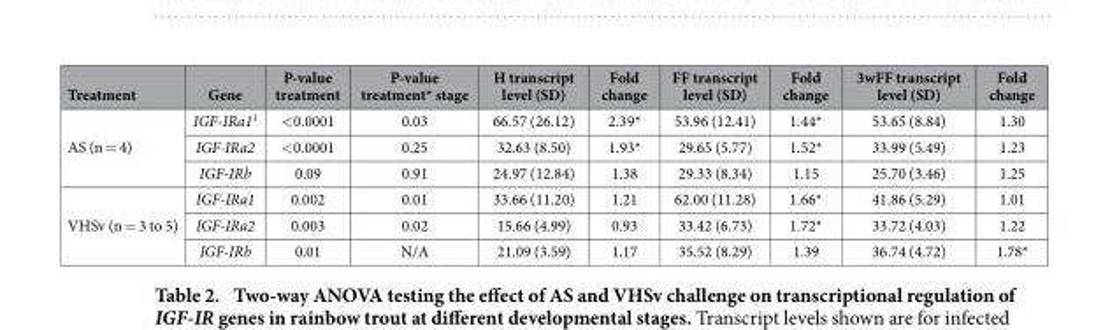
<table><thead><tr><td>Treatment</td><td>Gene</td><td>P-value treatment</td><td>P-value treatment* stage</td><td>H transcript level (SD)</td><td>Fold change</td><td>FF transcript level (SD)</td><td>Fold change</td><td>3wFF transcript level (SD)</td><td>Fold change</td></tr></thead><tbody><tr><td rowspan="3">AS (n = 4)</td><td>IGF-IRa1<sup>1</sup></td><td>&lt; 0.0001</td><td>0.03</td><td>66.57 (26.12)</td><td>2.39*</td><td>53.96 (12.41)</td><td>1.44*</td><td>53.65 (8.84)</td><td>1.30</td></tr><tr><td>IGF-IRa2</td><td>&lt; 0.0001</td><td>0.25</td><td>32.63 (8.50)</td><td>1.93*</td><td>29.65 (5.77)</td><td>1.52*</td><td>33.99 (5.49)</td><td>1.23</td></tr><tr><td>IGF-IRb</td><td>0.09</td><td>0.91</td><td>24.97 (12.84)</td><td>1.38</td><td>29.33 (8.34)</td><td>1.15</td><td>25.70 (3.46)</td><td>1.25</td></tr><tr><td rowspan="3">VHSv (n = 3 to 5)</td><td>IGF-IRa1</td><td>0.002</td><td>0.01</td><td>33.66 (11.20)</td><td>1.21</td><td>62.00 (11.28)</td><td>1.66*</td><td>41.86 (5.29)</td><td>1.01</td></tr><tr><td>IGF-IRa2</td><td>0.003</td><td>0.02</td><td>15.66 (4.99)</td><td>0.93</td><td>33.42 (6.73)</td><td>1.72*</td><td>33.72 (4.03)</td><td>1.22</td></tr><tr><td>IGF-IRb</td><td>0.01</td><td>N/A</td><td>21.09 (3.59)</td><td>1.17</td><td>35.52 (8.29)</td><td>1.39</td><td>36.74 (4.72)</td><td>1.78*</td></tr></tbody></table>